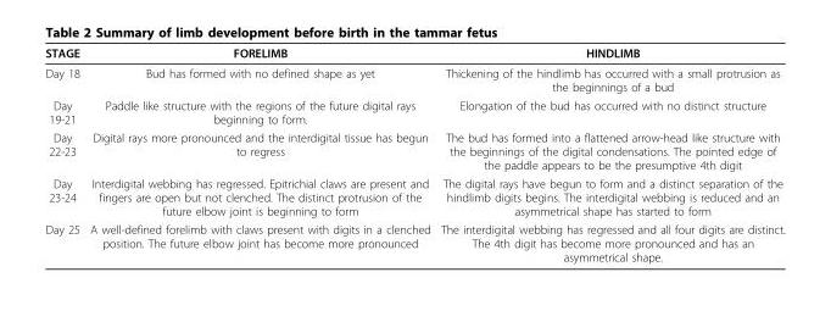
<table><thead><tr><td>STAGE</td><td>FORELIMB</td><td>HINDLIMB</td></tr></thead><tbody><tr><td>Day 18</td><td>Bud has formed with no defined shape as yet</td><td>Thickening of the hindlimb has occurred with a small protrusion as the beginnings of a bud</td></tr><tr><td>Day 19-21</td><td>Paddle like structure with the regions of the future digital rays beginning to form.</td><td>Elongation of the bud has occurred with no distinct structure</td></tr><tr><td>Day 22-23</td><td>Digital rays more pronounced and the interdigital tissue has begun to regress</td><td>The bud has formed into a flattened arrow-head like structure with the beginnings of the digital condensations. The pointed edge of the paddle appears to be the presumptive 4th digit</td></tr><tr><td>Day 23-24</td><td>Interdigital webbing has regressed. Epitrichial claws are present and fingers are open but not clenched. The distinct protrusion of the future elbow joint is beginning to form</td><td>The digital rays have begun to form and a distinct separation of the hindlimb digits begins. The interdigital webbing is reduced and an asymmetrical shape has started to form</td></tr><tr><td>Day 25</td><td>A well-defined forelimb with claws present with digits in a clenched position. The future elbow joint has become more pronounced</td><td>The interdigital webbing has regressed and all four digits are distinct. The 4th digit has become more pronounced and has an asymmetrical shape.</td></tr></tbody></table>